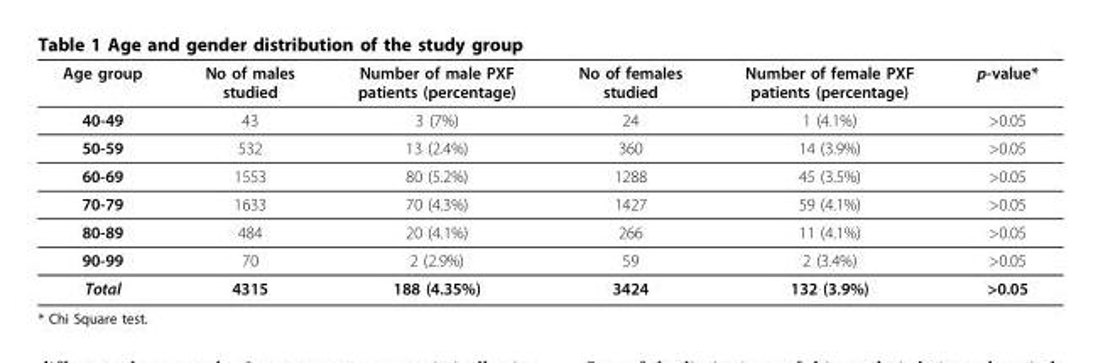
<table><thead><tr><td>Age group</td><td>No of males studied</td><td>Number of male PXF patients (percentage)</td><td>No of females studied</td><td>Number of female PXF patients (percentage)</td><td>p-value*</td></tr></thead><tbody><tr><td>40-49</td><td>43</td><td>3 (7%)</td><td>24</td><td>1 (4.1%)</td><td>&gt;0.05</td></tr><tr><td>50-59</td><td>532</td><td>13 (2.4%)</td><td>360</td><td>14 (3.9%)</td><td>&gt;0.05</td></tr><tr><td>60-69</td><td>1553</td><td>80 (5.2%)</td><td>1288</td><td>45 (3.5%)</td><td>&gt;0.05</td></tr><tr><td>70-79</td><td>1633</td><td>70 (4.3%)</td><td>1427</td><td>59 (4.1%)</td><td>&gt;0.05</td></tr><tr><td>80-89</td><td>484</td><td>20 (4.1%)</td><td>266</td><td>11 (4.1%)</td><td>&gt;0.05</td></tr><tr><td>90-99</td><td>70</td><td>2 (2.9%)</td><td>59</td><td>2 (3.4%)</td><td>&gt;0.05</td></tr><tr><td>Total</td><td>4315</td><td>188 (4.35%)</td><td>3424</td><td>132 (3.9%)</td><td>&gt;0.05</td></tr></tbody></table>